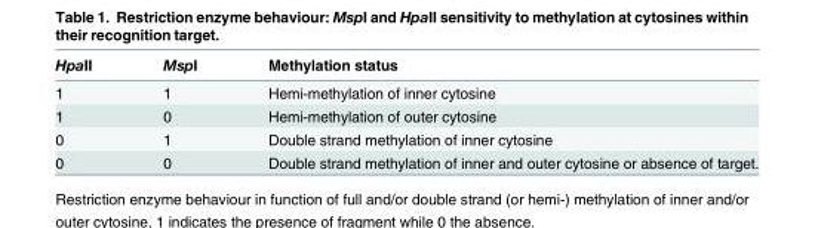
<table><thead><tr><td>HpaII</td><td>MspI</td><td>Methylation status</td></tr></thead><tbody><tr><td>1</td><td>1</td><td>Hemi-methylation of inner cytosine</td></tr><tr><td>1</td><td>0</td><td>Hemi-methylation of outer cytosine</td></tr><tr><td>0</td><td>1</td><td>Double strand methylation of inner cytosine</td></tr><tr><td>0</td><td>0</td><td>Double strand methylation of inner and outer cytosine or absence of target.</td></tr></tbody></table>